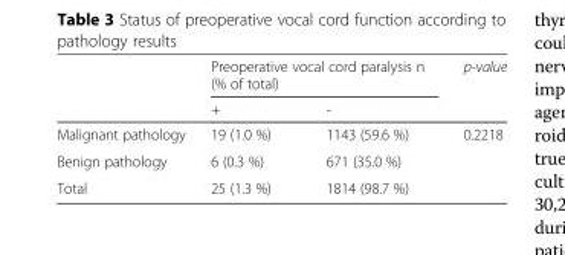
<table><thead><tr><td rowspan="2"></td><td colspan="2">Preoperative vocal cord paralysis n (% of total)</td><td rowspan="2">p-value</td></tr><tr><td>+</td><td>-</td></tr></thead><tbody><tr><td>Malignant pathology</td><td>19 (1.0 %)</td><td>1143 (59.6 %)</td><td rowspan="2">0.2218</td></tr><tr><td>Benign pathology</td><td>6 (0.3 %)</td><td>671 (35.0 %)</td></tr><tr><td>Total</td><td>25 (1.3 %)</td><td>1814 (98.7 %)</td><td></td></tr></tbody></table>